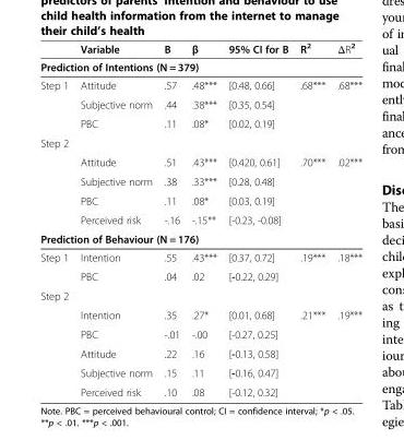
<table><thead><tr><td></td><td>Variable</td><td>B</td><td>β</td><td>95% CI for B</td><td>R<sup>2</sup></td><td>ΔR<sup>2</sup></td></tr></thead><tbody><tr><td colspan="7">Prediction of Intentions (N = 379)</td></tr><tr><td rowspan="3">Step 1</td><td>Attitude</td><td>.57</td><td>.48***</td><td>[0.48, 0.66]</td><td>.68***</td><td>.68***</td></tr><tr><td>Subjective norm</td><td>.44</td><td>.38***</td><td>[0.35, 0.54]</td><td></td><td></td></tr><tr><td>PBC</td><td>.11</td><td>.08*</td><td>[0.02, 0.19]</td><td></td><td></td></tr><tr><td colspan="7">Step 2</td></tr><tr><td></td><td>Attitude</td><td>.51</td><td>.43***</td><td>[0.420, 0.61]</td><td>.70***</td><td>.02***</td></tr><tr><td></td><td>Subjective norm</td><td>.38</td><td>.33***</td><td>[0.28, 0.48]</td><td></td><td></td></tr><tr><td></td><td>PBC</td><td>.11</td><td>.08*</td><td>[0.03, 0.19]</td><td></td><td></td></tr><tr><td></td><td>Perceived risk</td><td>-.16</td><td>-.15**</td><td>[-0.23, -0.08]</td><td></td><td></td></tr><tr><td colspan="7">Prediction of Behaviour (N = 176)</td></tr><tr><td rowspan="2">Step 1</td><td>Intention</td><td>.55</td><td>.43***</td><td>[0.37, 0.72]</td><td>.19***</td><td>.18***</td></tr><tr><td>PBC</td><td>.04</td><td>.02</td><td>[-0.22, 0.29]</td><td></td><td></td></tr><tr><td colspan="7">Step 2</td></tr><tr><td></td><td>Intention</td><td>.35</td><td>.27*</td><td>[0.01, 0.68]</td><td>.21***</td><td>.19***</td></tr><tr><td></td><td>PBC</td><td>-.01</td><td>-.00</td><td>[-0.27, 0.25]</td><td></td><td></td></tr><tr><td></td><td>Attitude</td><td>.22</td><td>.16</td><td>[-0.13, 0.58]</td><td></td><td></td></tr><tr><td></td><td>Subjective norm</td><td>.15</td><td>.11</td><td>[-0.16, 0.47]</td><td></td><td></td></tr><tr><td></td><td>Perceived risk</td><td>.10</td><td>.08</td><td>[-0.12, 0.32]</td><td></td><td></td></tr></tbody></table>